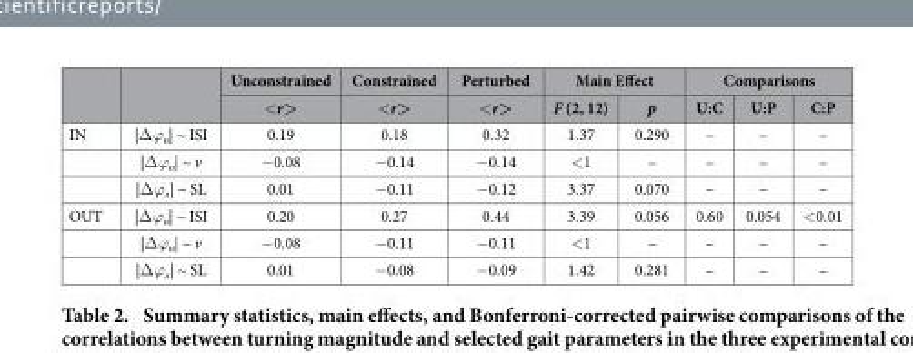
<table><thead><tr><td rowspan="2"></td><td rowspan="2"></td><td rowspan="2">Unconstrained &lt; r&gt;</td><td rowspan="2">Constrained &lt; r&gt;</td><td rowspan="2">Perturbed &lt; r&gt;</td><td colspan="2">Main Effect</td><td colspan="3">Comparisons</td></tr><tr><td>F (2, 12)</td><td>p</td><td>U:C</td><td>U:P</td><td>C:P</td></tr></thead><tbody><tr><td rowspan="3">IN</td><td>|Δ ϕ<sub>n</sub>| ~ ISI</td><td>0.19</td><td>0.18</td><td>0.32</td><td>1.37</td><td>0.290</td><td>–</td><td>–</td><td>–</td></tr><tr><td>|Δ ϕ<sub>n</sub>| ~ v</td><td>− 0.08</td><td>− 0.14</td><td>− 0.14</td><td>&lt; 1</td><td>–</td><td>–</td><td>–</td><td>–</td></tr><tr><td>|Δ ϕ<sub>n</sub>| ~ SL</td><td>0.01</td><td>− 0.11</td><td>− 0.12</td><td>3.37</td><td>0.070</td><td>–</td><td>–</td><td>–</td></tr><tr><td rowspan="3">OUT</td><td>|Δ ϕ<sub>n</sub>| ~ ISI</td><td>0.20</td><td>0.27</td><td>0.44</td><td>3.39</td><td>0.056</td><td>0.60</td><td>0.054</td><td>&lt; 0.01</td></tr><tr><td>|Δ ϕ<sub>n</sub>| ~ v</td><td>− 0.08</td><td>− 0.11</td><td>− 0.11</td><td>&lt; 1</td><td>–</td><td>–</td><td>–</td><td>–</td></tr><tr><td>|Δ ϕ<sub>n</sub>| ~ SL</td><td>0.01</td><td>− 0.08</td><td>− 0.09</td><td>1.42</td><td>0.281</td><td>–</td><td>–</td><td>–</td></tr></tbody></table>